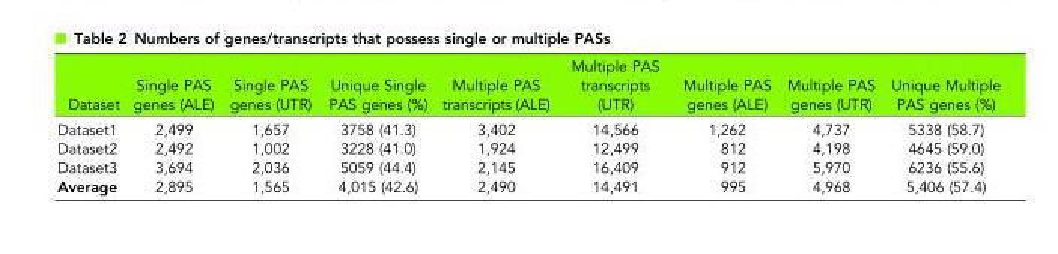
<table><thead><tr><td>Dataset</td><td>Single PAS genes (ALE)</td><td>Single PAS genes (UTR)</td><td>Unique Single PAS genes (%)</td><td>Multiple PAS transcripts (ALE)</td><td>Multiple PAS transcripts (UTR)</td><td>Multiple PAS genes (ALE)</td><td>Multiple PAS genes (UTR)</td><td>Unique Multiple PAS genes (%)</td></tr></thead><tbody><tr><td>Dataset1</td><td>2,499</td><td>1,657</td><td>3758 (41.3)</td><td>3,402</td><td>14,566</td><td>1,262</td><td>4,737</td><td>5338 (58.7)</td></tr><tr><td>Dataset2</td><td>2,492</td><td>1,002</td><td>3228 (41.0)</td><td>1,924</td><td>12,499</td><td>812</td><td>4,198</td><td>4645 (59.0)</td></tr><tr><td>Dataset3</td><td>3,694</td><td>2,036</td><td>5059 (44.4)</td><td>2,145</td><td>16,409</td><td>912</td><td>5,970</td><td>6236 (55.6)</td></tr><tr><td>Average</td><td>2,895</td><td>1,565</td><td>4,015 (42.6)</td><td>2,490</td><td>14,491</td><td>995</td><td>4,968</td><td>5,406 (57.4)</td></tr></tbody></table>